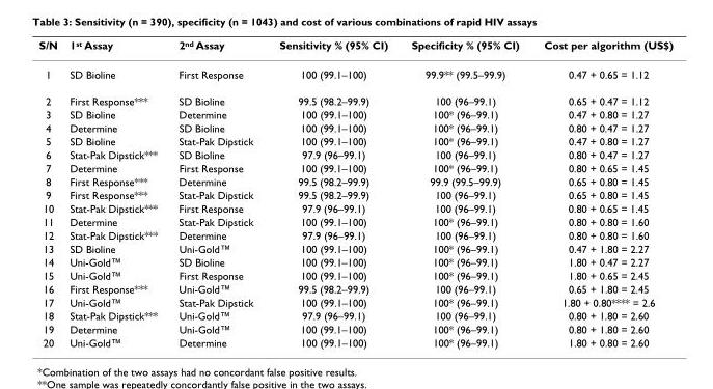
<table><thead><tr><td>S/N</td><td>1<sup>st</sup> Assay</td><td>2<sup>nd</sup> Assay</td><td>Sensitivity % (95% CI)</td><td>Specificity % (95% CI)</td><td>Cost per algorithm (US$)</td></tr></thead><tbody><tr><td>1</td><td>SD Bioline</td><td>First Response</td><td>100 (99.1–100)</td><td>99.9** (99.5–99.9)</td><td>0.47 + 0.65 = 1.12</td></tr><tr><td>2</td><td>First Response***</td><td>SD Bioline</td><td>99.5 (98.2–99.9)</td><td>100 (96–99.1)</td><td>0.65 + 0.47 = 1.12</td></tr><tr><td>3</td><td>SD Bioline</td><td>Determine</td><td>100 (99.1–100)</td><td>100* (96–99.1)</td><td>0.47 + 0.80 = 1.27</td></tr><tr><td>4</td><td>Determine</td><td>SD Bioline</td><td>100 (99.1–100)</td><td>100* (96–99.1)</td><td>0.80 + 0.47 = 1.27</td></tr><tr><td>5</td><td>SD Bioline</td><td>Stat-Pak Dipstick</td><td>100 (99.1–100)</td><td>100* (96–99.1)</td><td>0.47 + 0.80 = 1.27</td></tr><tr><td>6</td><td>Stat-Pak Dipstick***</td><td>SD Bioline</td><td>97.9 (96–99.1)</td><td>100 (96–99.1)</td><td>0.80 + 0.47 = 1.27</td></tr><tr><td>7</td><td>Determine</td><td>First Response</td><td>100 (99.1–100)</td><td>100* (96–99.1)</td><td>0.80 + 0.65 = 1.45</td></tr><tr><td>8</td><td>First Response***</td><td>Determine</td><td>99.5 (98.2–99.9)</td><td>99.9 (99.5–99.9)</td><td>0.65 + 0.80 = 1.45</td></tr><tr><td>9</td><td>First Response***</td><td>Stat-Pak Dipstick</td><td>99.5 (98.2–99.9)</td><td>100 (96–99.1)</td><td>0.65 + 0.80 = 1.45</td></tr><tr><td>10</td><td>Stat-Pak Dipstick***</td><td>First Response</td><td>97.9 (96–99.1)</td><td>100 (96–99.1)</td><td>0.80 + 0.65 = 1.45</td></tr><tr><td>11</td><td>Determine</td><td>Stat-Pak Dipstick</td><td>100 (99.1–100)</td><td>100* (96–99.1)</td><td>0.80 + 0.80 = 1.60</td></tr><tr><td>12</td><td>Stat-Pak Dipstick***</td><td>Determine</td><td>97.9 (96–99.1)</td><td>100 (96–99.1)</td><td>0.80 + 0.80 = 1.60</td></tr><tr><td>13</td><td>SD Bioline</td><td>Uni-Gold™</td><td>100 (99.1–100)</td><td>100* (96–99.1)</td><td>0.47 + 1.80 = 2.27</td></tr><tr><td>14</td><td>Uni-Gold™</td><td>SD Bioline</td><td>100 (99.1–100)</td><td>100* (96–99.1)</td><td>1.80 + 0.47 = 2.27</td></tr><tr><td>15</td><td>Uni-Gold™</td><td>First Response</td><td>100 (99.1–100)</td><td>100* (96–99.1)</td><td>1.80 + 0.65 = 2.45</td></tr><tr><td>16</td><td>First Response***</td><td>Uni-Gold™</td><td>99.5 (98.2–99.9)</td><td>100 (96–99.1)</td><td>0.65 + 1.80 = 2.45</td></tr><tr><td>17</td><td>Uni-Gold™</td><td>Stat-Pak Dipstick</td><td>100 (99.1–100)</td><td>100* (96–99.1)</td><td>1.80 + 0.80**** = 2.6</td></tr><tr><td>18</td><td>Stat-Pak Dipstick***</td><td>Uni-Gold™</td><td>97.9 (96–99.1)</td><td>100 (96–99.1)</td><td>0.80 + 1.80 = 2.60</td></tr><tr><td>19</td><td>Determine</td><td>Uni-Gold™</td><td>100 (99.1–100)</td><td>100* (96–99.1)</td><td>0.80 + 1.80 = 2.60</td></tr><tr><td>20</td><td>Uni-Gold™</td><td>Determine</td><td>100 (99.1–100)</td><td>100* (96–99.1)</td><td>1.80 + 0.80 = 2.60</td></tr></tbody></table>